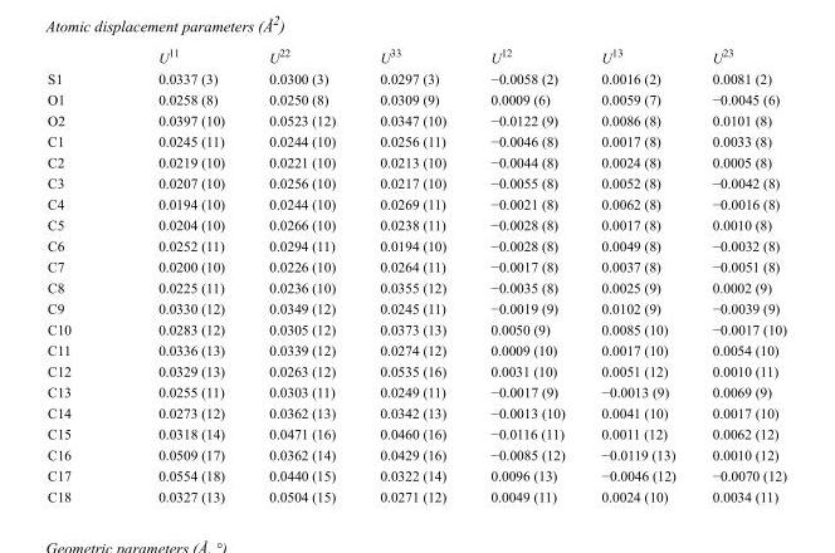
<table><thead><tr><td></td><td>U<sup>11</sup></td><td>U<sup>22</sup></td><td>U<sup>33</sup></td><td>U<sup>12</sup></td><td>U<sup>13</sup></td><td>U<sup>23</sup></td></tr></thead><tbody><tr><td>S1</td><td>0.0337 (3)</td><td>0.0300 (3)</td><td>0.0297 (3)</td><td>−0.0058 (2)</td><td>0.0016 (2)</td><td>0.0081 (2)</td></tr><tr><td>O1</td><td>0.0258 (8)</td><td>0.0250 (8)</td><td>0.0309 (9)</td><td>0.0009 (6)</td><td>0.0059 (7)</td><td>−0.0045 (6)</td></tr><tr><td>O2</td><td>0.0397 (10)</td><td>0.0523 (12)</td><td>0.0347 (10)</td><td>−0.0122 (9)</td><td>0.0086 (8)</td><td>0.0101 (8)</td></tr><tr><td>C1</td><td>0.0245 (11)</td><td>0.0244 (10)</td><td>0.0256 (11)</td><td>−0.0046 (8)</td><td>0.0017 (8)</td><td>0.0033 (8)</td></tr><tr><td>C2</td><td>0.0219 (10)</td><td>0.0221 (10)</td><td>0.0213 (10)</td><td>−0.0044 (8)</td><td>0.0024 (8)</td><td>0.0005 (8)</td></tr><tr><td>C3</td><td>0.0207 (10)</td><td>0.0256 (10)</td><td>0.0217 (10)</td><td>−0.0055 (8)</td><td>0.0052 (8)</td><td>−0.0042 (8)</td></tr><tr><td>C4</td><td>0.0194 (10)</td><td>0.0244 (10)</td><td>0.0269 (11)</td><td>−0.0021 (8)</td><td>0.0062 (8)</td><td>−0.0016 (8)</td></tr><tr><td>C5</td><td>0.0204 (10)</td><td>0.0266 (10)</td><td>0.0238 (11)</td><td>−0.0028 (8)</td><td>0.0017 (8)</td><td>0.0010 (8)</td></tr><tr><td>C6</td><td>0.0252 (11)</td><td>0.0294 (11)</td><td>0.0194 (10)</td><td>−0.0028 (8)</td><td>0.0049 (8)</td><td>−0.0032 (8)</td></tr><tr><td>C7</td><td>0.0200 (10)</td><td>0.0226 (10)</td><td>0.0264 (11)</td><td>−0.0017 (8)</td><td>0.0037 (8)</td><td>−0.0051 (8)</td></tr><tr><td>C8</td><td>0.0225 (11)</td><td>0.0236 (10)</td><td>0.0355 (12)</td><td>−0.0035 (8)</td><td>0.0025 (9)</td><td>0.0002 (9)</td></tr><tr><td>C9</td><td>0.0330 (12)</td><td>0.0349 (12)</td><td>0.0245 (11)</td><td>−0.0019 (9)</td><td>0.0102 (9)</td><td>−0.0039 (9)</td></tr><tr><td>C10</td><td>0.0283 (12)</td><td>0.0305 (12)</td><td>0.0373 (13)</td><td>0.0050 (9)</td><td>0.0085 (10)</td><td>−0.0017 (10)</td></tr><tr><td>C11</td><td>0.0336 (13)</td><td>0.0339 (12)</td><td>0.0274 (12)</td><td>0.0009 (10)</td><td>0.0017 (10)</td><td>0.0054 (10)</td></tr><tr><td>C12</td><td>0.0329 (13)</td><td>0.0263 (12)</td><td>0.0535 (16)</td><td>0.0031 (10)</td><td>0.0051 (12)</td><td>0.0010 (11)</td></tr><tr><td>C13</td><td>0.0255 (11)</td><td>0.0303 (11)</td><td>0.0249 (11)</td><td>−0.0017 (9)</td><td>−0.0013 (9)</td><td>0.0069 (9)</td></tr><tr><td>C14</td><td>0.0273 (12)</td><td>0.0362 (13)</td><td>0.0342 (13)</td><td>−0.0013 (10)</td><td>0.0041 (10)</td><td>0.0017 (10)</td></tr><tr><td>C15</td><td>0.0318 (14)</td><td>0.0471 (16)</td><td>0.0460 (16)</td><td>−0.0116 (11)</td><td>0.0011 (12)</td><td>0.0062 (12)</td></tr><tr><td>C16</td><td>0.0509 (17)</td><td>0.0362 (14)</td><td>0.0429 (16)</td><td>−0.0085 (12)</td><td>−0.0119 (13)</td><td>0.0010 (12)</td></tr><tr><td>C17</td><td>0.0554 (18)</td><td>0.0440 (15)</td><td>0.0322 (14)</td><td>0.0096 (13)</td><td>−0.0046 (12)</td><td>−0.0070 (12)</td></tr><tr><td>C18</td><td>0.0327 (13)</td><td>0.0504 (15)</td><td>0.0271 (12)</td><td>0.0049 (11)</td><td>0.0024 (10)</td><td>0.0034 (11)</td></tr></tbody></table>